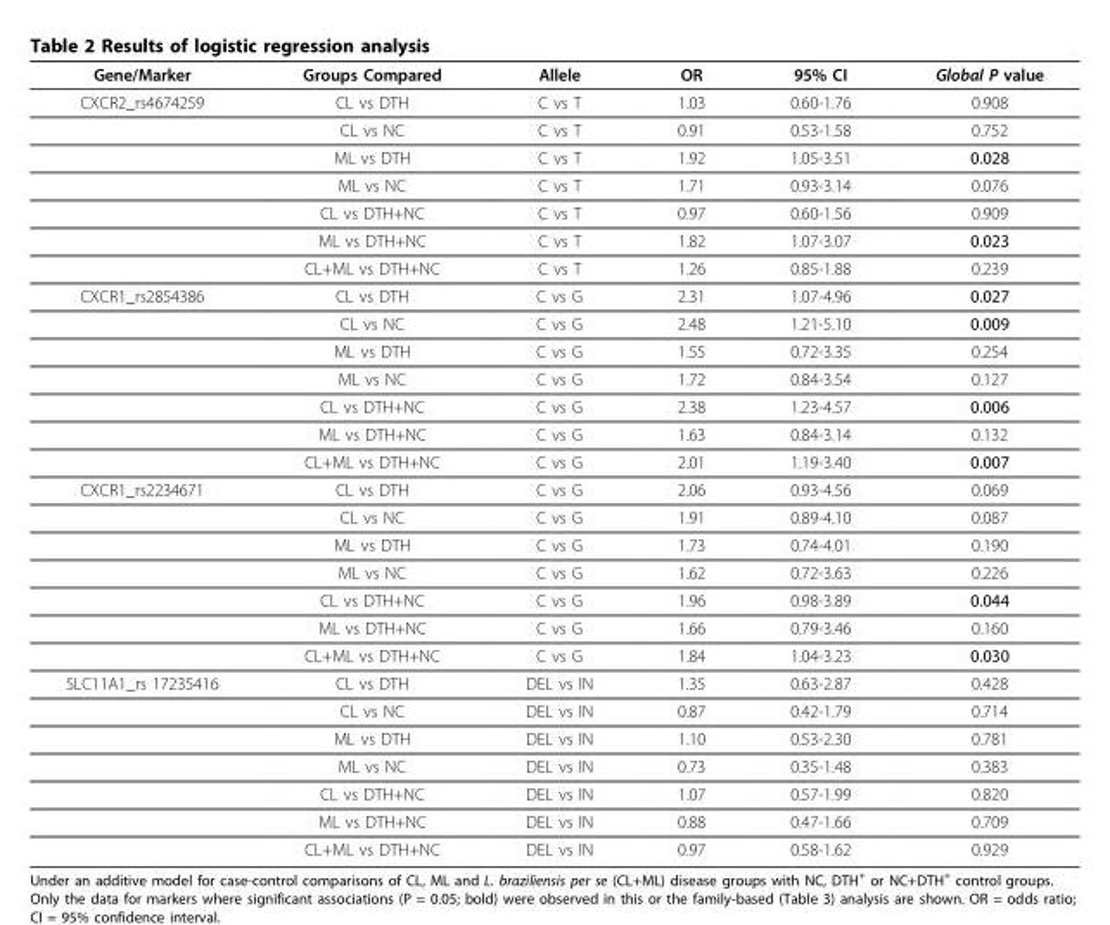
<table><thead><tr><td>Gene/Marker</td><td>Groups Compared</td><td>Allele</td><td>OR</td><td>95% CI</td><td>Global P value</td></tr></thead><tbody><tr><td rowspan="7">CXCR2_rs4674259</td><td>CL vs DTH</td><td>C vs T</td><td>1.03</td><td>0.60-1.76</td><td>0.908</td></tr><tr><td>CL vs NC</td><td>C vs T</td><td>0.91</td><td>0.53-1.58</td><td>0.752</td></tr><tr><td>ML vs DTH</td><td>C vs T</td><td>1.92</td><td>1.05-3.51</td><td>0.028</td></tr><tr><td>ML vs NC</td><td>C vs T</td><td>1.71</td><td>0.93-3.14</td><td>0.076</td></tr><tr><td>CL vs DTH+NC</td><td>C vs T</td><td>0.97</td><td>0.60-1.56</td><td>0.909</td></tr><tr><td>ML vs DTH+NC</td><td>C vs T</td><td>1.82</td><td>1.07-3.07</td><td>0.023</td></tr><tr><td>CL+ML vs DTH+NC</td><td>C vs T</td><td>1.26</td><td>0.85-1.88</td><td>0.239</td></tr><tr><td rowspan="7">CXCR1_rs2854386</td><td>CL vs DTH</td><td>C vs G</td><td>2.31</td><td>1.07-4.96</td><td>0.027</td></tr><tr><td>CL vs NC</td><td>C vs G</td><td>2.48</td><td>1.21-5.10</td><td>0.009</td></tr><tr><td>ML vs DTH</td><td>C vs G</td><td>1.55</td><td>0.72-3.35</td><td>0.254</td></tr><tr><td>ML vs NC</td><td>C vs G</td><td>1.72</td><td>0.84-3.54</td><td>0.127</td></tr><tr><td>CL vs DTH+NC</td><td>C vs G</td><td>2.38</td><td>1.23-4.57</td><td>0.006</td></tr><tr><td>ML vs DTH+NC</td><td>C vs G</td><td>1.63</td><td>0.84-3.14</td><td>0.132</td></tr><tr><td>CL+ML vs DTH+NC</td><td>C vs G</td><td>2.01</td><td>1.19-3.40</td><td>0.007</td></tr><tr><td rowspan="7">CXCR1_rs2234671</td><td>CL vs DTH</td><td>C vs G</td><td>2.06</td><td>0.93-4.56</td><td>0.069</td></tr><tr><td>CL vs NC</td><td>C vs G</td><td>1.91</td><td>0.89-4.10</td><td>0.087</td></tr><tr><td>ML vs DTH</td><td>C vs G</td><td>1.73</td><td>0.74-4.01</td><td>0.190</td></tr><tr><td>ML vs NC</td><td>C vs G</td><td>1.62</td><td>0.72-3.63</td><td>0.226</td></tr><tr><td>CL vs DTH+NC</td><td>C vs G</td><td>1.96</td><td>0.98-3.89</td><td>0.044</td></tr><tr><td>ML vs DTH+NC</td><td>C vs G</td><td>1.66</td><td>0.79-3.46</td><td>0.160</td></tr><tr><td>CL+ML vs DTH+NC</td><td>C vs G</td><td>1.84</td><td>1.04-3.23</td><td>0.030</td></tr><tr><td rowspan="7">SLC11A1_rs 17235416</td><td>CL vs DTH</td><td>DEL vs IN</td><td>1.35</td><td>0.63-2.87</td><td>0.428</td></tr><tr><td>CL vs NC</td><td>DEL vs IN</td><td>0.87</td><td>0.42-1.79</td><td>0.714</td></tr><tr><td>ML vs DTH</td><td>DEL vs IN</td><td>1.10</td><td>0.53-2.30</td><td>0.781</td></tr><tr><td>ML vs NC</td><td>DEL vs IN</td><td>0.73</td><td>0.35-1.48</td><td>0.383</td></tr><tr><td>CL vs DTH+NC</td><td>DEL vs IN</td><td>1.07</td><td>0.57-1.99</td><td>0.820</td></tr><tr><td>ML vs DTH+NC</td><td>DEL vs IN</td><td>0.88</td><td>0.47-1.66</td><td>0.709</td></tr><tr><td>CL+ML vs DTH+NC</td><td>DEL vs IN</td><td>0.97</td><td>0.58-1.62</td><td>0.929</td></tr></tbody></table>